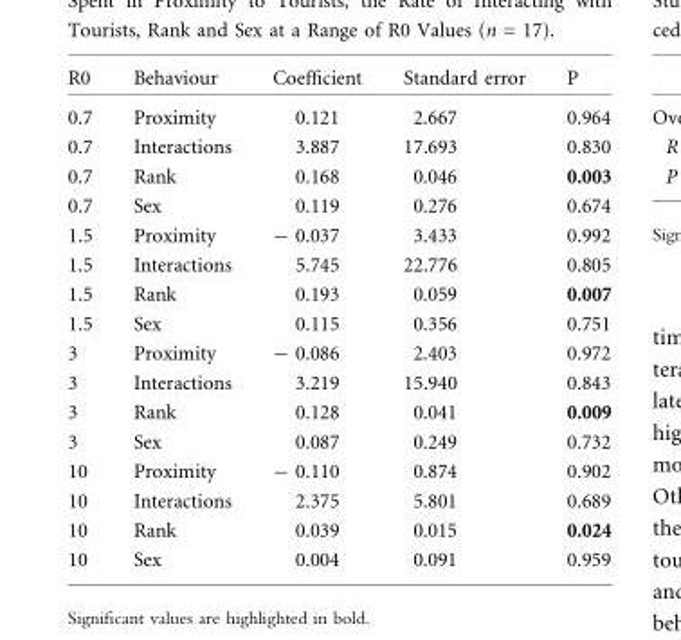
<table><thead><tr><td>R0</td><td>Behaviour</td><td>Coefficient</td><td>Standard error</td><td>P</td></tr></thead><tbody><tr><td>0.7</td><td>Proximity</td><td>0.121</td><td>2.667</td><td>0.964</td></tr><tr><td>0.7</td><td>Interactions</td><td>3.887</td><td>17.693</td><td>0.830</td></tr><tr><td>0.7</td><td>Rank</td><td>0.168</td><td>0.046</td><td>0.003</td></tr><tr><td>0.7</td><td>Sex</td><td>0.119</td><td>0.276</td><td>0.674</td></tr><tr><td>1.5</td><td>Proximity</td><td>- 0.037</td><td>3.433</td><td>0.992</td></tr><tr><td>1.5</td><td>Interactions</td><td>5.745</td><td>22.776</td><td>0.805</td></tr><tr><td>1.5</td><td>Rank</td><td>0.193</td><td>0.059</td><td>0.007</td></tr><tr><td>1.5</td><td>Sex</td><td>0.115</td><td>0.356</td><td>0.751</td></tr><tr><td>3</td><td>Proximity</td><td>- 0.086</td><td>2.403</td><td>0.972</td></tr><tr><td>3</td><td>Interactions</td><td>3.219</td><td>15.940</td><td>0.843</td></tr><tr><td>3</td><td>Rank</td><td>0.128</td><td>0.041</td><td>0.009</td></tr><tr><td>3</td><td>Sex</td><td>0.087</td><td>0.249</td><td>0.732</td></tr><tr><td>10</td><td>Proximity</td><td>- 0.110</td><td>0.874</td><td>0.902</td></tr><tr><td>10</td><td>Interactions</td><td>2.375</td><td>5.801</td><td>0.689</td></tr><tr><td>10</td><td>Rank</td><td>0.039</td><td>0.015</td><td>0.024</td></tr><tr><td>10</td><td>Sex</td><td>0.004</td><td>0.091</td><td>0.959</td></tr></tbody></table>